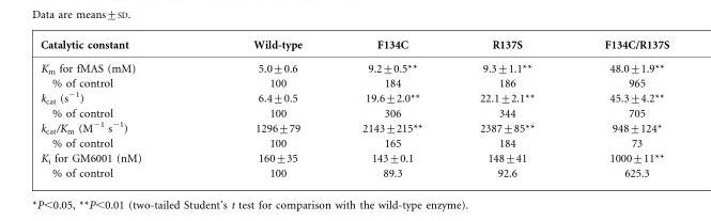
<table><thead><tr><td>Catalytic constant</td><td>Wild-type</td><td>F134C</td><td>R137S</td><td>F134C/R137S</td></tr></thead><tbody><tr><td>K<sub>m</sub> for fMAS (mM)</td><td>5.0±0.6</td><td>9.2±0.5**</td><td>9.3±1.1**</td><td>48.0±1.9**</td></tr><tr><td>% of control</td><td>100</td><td>184</td><td>186</td><td>965</td></tr><tr><td>k<sub>cat</sub> (s<sup>−1</sup>)</td><td>6.4±0.5</td><td>19.6±2.0**</td><td>22.1±2.1**</td><td>45.3±4.2**</td></tr><tr><td>% of control</td><td>100</td><td>306</td><td>344</td><td>705</td></tr><tr><td>k<sub>cat</sub>/K<sub>m</sub> (M<sup>−1</sup> s<sup>−1</sup>)</td><td>1296±79</td><td>2143±215**</td><td>2387±85**</td><td>948±124*</td></tr><tr><td>% of control</td><td>100</td><td>165</td><td>184</td><td>73</td></tr><tr><td>K<sub>i</sub> for GM6001 (nM)</td><td>160±35</td><td>143±0.1</td><td>148±41</td><td>1000±11**</td></tr><tr><td>% of control</td><td>100</td><td>89.3</td><td>92.6</td><td>625.3</td></tr></tbody></table>